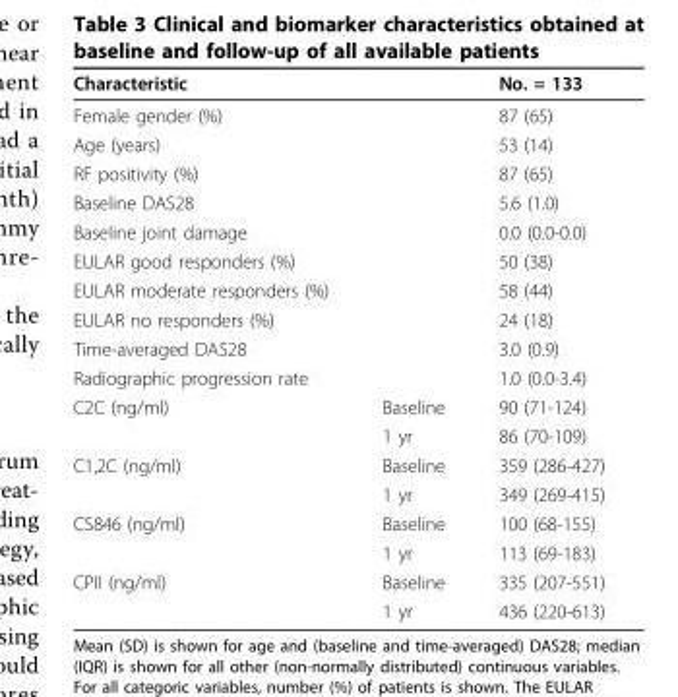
<table><thead><tr><td>Characteristic</td><td></td><td>No. = 133</td></tr></thead><tbody><tr><td>Female gender (%)</td><td></td><td>87 (65)</td></tr><tr><td>Age (years)</td><td></td><td>53 (14)</td></tr><tr><td>RF positivity (%)</td><td></td><td>87 (65)</td></tr><tr><td>Baseline DAS28</td><td></td><td>5.6 (1.0)</td></tr><tr><td>Baseline joint damage</td><td></td><td>0.0 (0.0-0.0)</td></tr><tr><td>EULAR good responders (%)</td><td></td><td>50 (38)</td></tr><tr><td>EULAR moderate responders (%)</td><td></td><td>58 (44)</td></tr><tr><td>EULAR no responders (%)</td><td></td><td>24 (18)</td></tr><tr><td>Time-averaged DAS28</td><td></td><td>3.0 (0.9)</td></tr><tr><td>Radiographic progression rate</td><td></td><td>1.0 (0.0-3.4)</td></tr><tr><td rowspan="2">C2C (ng/ml)</td><td>Baseline</td><td>90 (71-124)</td></tr><tr><td>1 yr</td><td>86 (70-109)</td></tr><tr><td rowspan="2">C1,2C (ng/ml)</td><td>Baseline</td><td>359 (286-427)</td></tr><tr><td>1 yr</td><td>349 (269-415)</td></tr><tr><td rowspan="2">CS846 (ng/ml)</td><td>Baseline</td><td>100 (68-155)</td></tr><tr><td>1 yr</td><td>113 (69-183)</td></tr><tr><td rowspan="2">CPII (ng/ml)</td><td>Baseline</td><td>335 (207-551)</td></tr><tr><td>1 yr</td><td>436 (220-613)</td></tr></tbody></table>